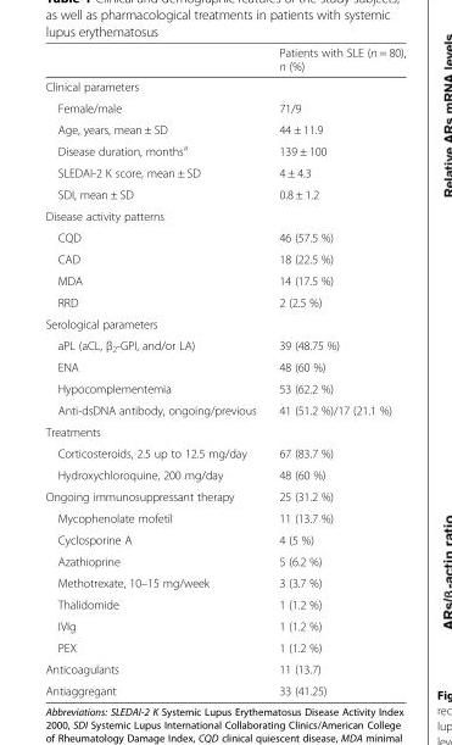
<table><thead><tr><td></td><td>Patients with SLE (n = 80), n (%)</td></tr></thead><tbody><tr><td colspan="2">Clinical parameters</td></tr><tr><td>Female/male</td><td>71/9</td></tr><tr><td>Age, years, mean ± SD</td><td>44 ± 11.9</td></tr><tr><td>Disease duration, months<sup>a</sup></td><td>139 ± 100</td></tr><tr><td>SLEDAI-2 K score, mean ± SD</td><td>4 ± 4.3</td></tr><tr><td>SDI, mean ± SD</td><td>0.8 ± 1.2</td></tr><tr><td colspan="2">Disease activity patterns</td></tr><tr><td>CQD</td><td>46 (57.5 %)</td></tr><tr><td>CAD</td><td>18 (22.5 %)</td></tr><tr><td>MDA</td><td>14 (17.5 %)</td></tr><tr><td>RRD</td><td>2 (2.5 %)</td></tr><tr><td colspan="2">Serological parameters</td></tr><tr><td>aPL (aCL, β<sub>2</sub>-GPI, and/or LA)</td><td>39 (48.75 %)</td></tr><tr><td>ENA</td><td>48 (60 %)</td></tr><tr><td>Hypocomplementemia</td><td>53 (62.2 %)</td></tr><tr><td>Anti-dsDNA antibody, ongoing/previous</td><td>41 (51.2 %)/17 (21.1 %)</td></tr><tr><td colspan="2">Treatments</td></tr><tr><td>Corticosteroids, 2.5 up to 12.5 mg/day</td><td>67 (83.7 %)</td></tr><tr><td>Hydroxychloroquine, 200 mg/day</td><td>48 (60 %)</td></tr><tr><td>Ongoing immunosuppressant therapy</td><td>25 (31.2 %)</td></tr><tr><td>Mycophenolate mofetil</td><td>11 (13.7 %)</td></tr><tr><td>Cyclosporine A</td><td>4 (5 %)</td></tr><tr><td>Azathioprine</td><td>5 (6.2 %)</td></tr><tr><td>Methotrexate, 10–15 mg/week</td><td>3 (3.7 %)</td></tr><tr><td>Thalidomide</td><td>1 (1.2 %)</td></tr><tr><td>IVIg</td><td>1 (1.2 %)</td></tr><tr><td>PEX</td><td>1 (1.2 %)</td></tr><tr><td>Anticoagulants</td><td>11 (13.7)</td></tr><tr><td>Antiaggregant</td><td>33 (41.25)</td></tr></tbody></table>